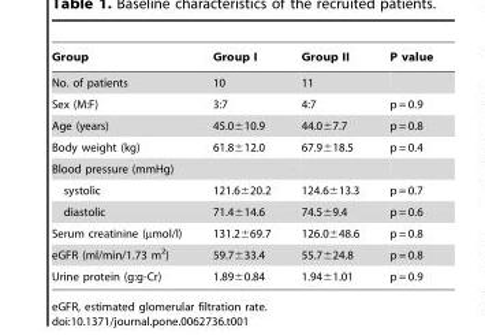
<table><thead><tr><td>Group</td><td>Group I</td><td>Group II</td><td>P value</td></tr></thead><tbody><tr><td>No. of patients</td><td>10</td><td>11</td><td></td></tr><tr><td>Sex (M:F)</td><td>3:7</td><td>4:7</td><td>p = 0.9</td></tr><tr><td>Age (years)</td><td>45.0±10.9</td><td>44.0±7.7</td><td>p = 0.8</td></tr><tr><td>Body weight (kg)</td><td>61.8±12.0</td><td>67.9±18.5</td><td>p = 0.4</td></tr><tr><td colspan="4">Blood pressure (mmHg)</td></tr><tr><td>systolic</td><td>121.6±20.2</td><td>124.6±13.3</td><td>p = 0.7</td></tr><tr><td>diastolic</td><td>71.4±14.6</td><td>74.5±9.4</td><td>p = 0.6</td></tr><tr><td>Serum creatinine (µmol/l)</td><td>131.2±69.7</td><td>126.0±48.6</td><td>p = 0.8</td></tr><tr><td>eGFR (ml/min/1.73 m<sup>2</sup>)</td><td>59.7±33.4</td><td>55.7±24.8</td><td>p = 0.8</td></tr><tr><td>Urine protein (g:g-Cr)</td><td>1.89±0.84</td><td>1.94±1.01</td><td>p = 0.9</td></tr></tbody></table>